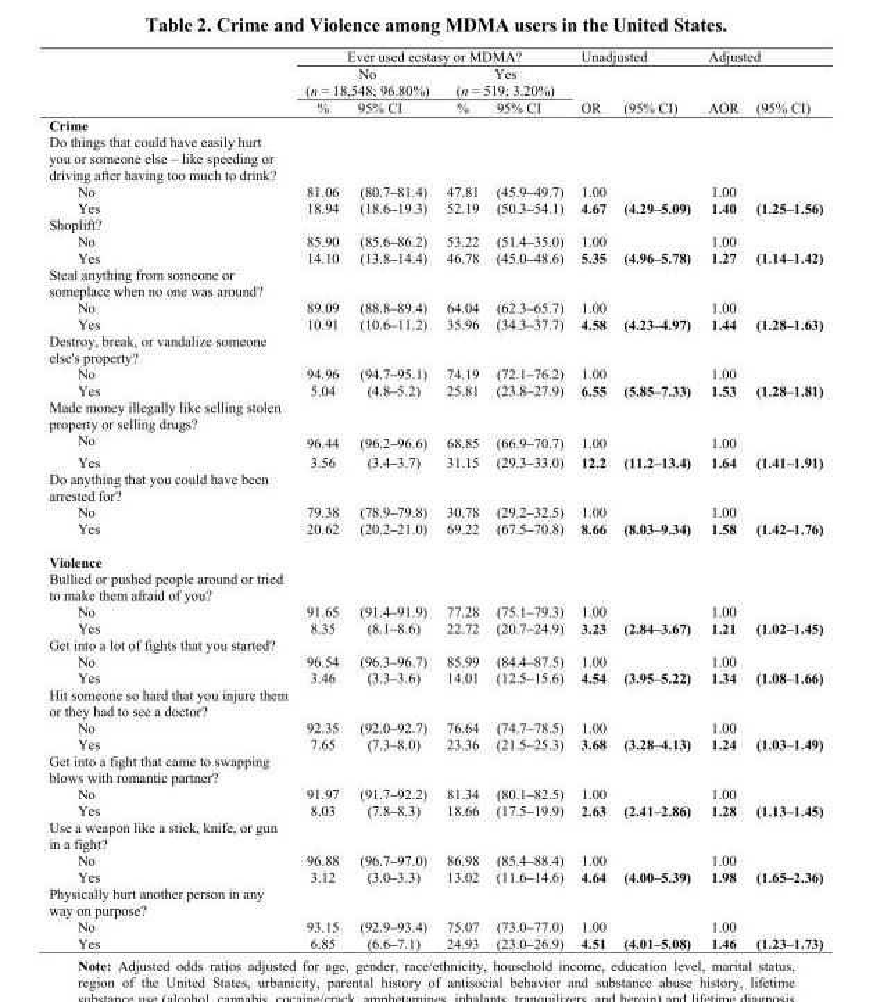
<table><thead><tr><td rowspan="3"></td><td colspan="4">Ever used ecstasy or MDMA?</td><td colspan="2">Unadjusted</td><td colspan="2">Adjusted</td></tr><tr><td colspan="2">No (n = 18,548; 96.80%)</td><td colspan="2">Yes (n = 519; 3.20%)</td><td rowspan="2">OR</td><td rowspan="2">(95% CI)</td><td rowspan="2">AOR</td><td rowspan="2">(95% CI)</td></tr><tr><td>%</td><td>95% CI</td><td>%</td><td>95% CI</td></tr></thead><tbody><tr><td colspan="9">Crime</td></tr><tr><td colspan="9">Do things that could have easily hurt you or someone else – like speeding or driving after having too much to drink?</td></tr><tr><td>No</td><td>81.06</td><td>(80.7–81.4)</td><td>47.81</td><td>(45.9–49.7)</td><td>1.00</td><td></td><td>1.00</td><td></td></tr><tr><td>Yes</td><td>18.94</td><td>(18.6–19.3)</td><td>52.19</td><td>(50.3–54.1)</td><td>4.67</td><td>(4.29–5.09)</td><td>1.40</td><td>(1.25–1.56)</td></tr><tr><td colspan="9">Shoplift?</td></tr><tr><td>No</td><td>85.90</td><td>(85.6–86.2)</td><td>53.22</td><td>(51.4–35.0)</td><td>1.00</td><td></td><td>1.00</td><td></td></tr><tr><td>Yes</td><td>14.10</td><td>(13.8–14.4)</td><td>46.78</td><td>(45.0–48.6)</td><td>5.35</td><td>(4.96–5.78)</td><td>1.27</td><td>(1.14–1.42)</td></tr><tr><td colspan="9">Steal anything from someone or someplace when no one was around?</td></tr><tr><td>No</td><td>89.09</td><td>(88.8–89.4)</td><td>64.04</td><td>(62.3–65.7)</td><td>1.00</td><td></td><td>1.00</td><td></td></tr><tr><td>Yes</td><td>10.91</td><td>(10.6–11.2)</td><td>35.96</td><td>(34.3–37.7)</td><td>4.58</td><td>(4.23–4.97)</td><td>1.44</td><td>(1.28–1.63)</td></tr><tr><td colspan="9">Destroy, break, or vandalize someone else&#x27;s property?</td></tr><tr><td>No</td><td>94.96</td><td>(94.7–95.1)</td><td>74.19</td><td>(72.1–76.2)</td><td>1.00</td><td></td><td>1.00</td><td></td></tr><tr><td>Yes</td><td>5.04</td><td>(4.8–5.2)</td><td>25.81</td><td>(23.8–27.9)</td><td>6.55</td><td>(5.85–7.33)</td><td>1.53</td><td>(1.28–1.81)</td></tr><tr><td colspan="9">Made money illegally like selling stolen property or selling drugs?</td></tr><tr><td>No</td><td>96.44</td><td>(96.2–96.6)</td><td>68.85</td><td>(66.9–70.7)</td><td>1.00</td><td></td><td>1.00</td><td></td></tr><tr><td>Yes</td><td>3.56</td><td>(3.4–3.7)</td><td>31.15</td><td>(29.3–33.0)</td><td>12.2</td><td>(11.2–13.4)</td><td>1.64</td><td>(1.41–1.91)</td></tr><tr><td colspan="9">Do anything that you could have been arrested for?</td></tr><tr><td>No</td><td>79.38</td><td>(78.9–79.8)</td><td>30.78</td><td>(29.2–32.5)</td><td>1.00</td><td></td><td>1.00</td><td></td></tr><tr><td>Yes</td><td>20.62</td><td>(20.2–21.0)</td><td>69.22</td><td>(67.5–70.8)</td><td>8.66</td><td>(8.03–9.34)</td><td>1.58</td><td>(1.42–1.76)</td></tr><tr><td colspan="9">Violence</td></tr><tr><td colspan="9">Bullied or pushed people around or tried to make them afraid of you?</td></tr><tr><td>No</td><td>91.65</td><td>(91.4–91.9)</td><td>77.28</td><td>(75.1–79.3)</td><td>1.00</td><td></td><td>1.00</td><td></td></tr><tr><td>Yes</td><td>8.35</td><td>(8.1–8.6)</td><td>22.72</td><td>(20.7–24.9)</td><td>3.23</td><td>(2.84–3.67)</td><td>1.21</td><td>(1.02–1.45)</td></tr><tr><td colspan="9">Get into a lot of fights that you started?</td></tr><tr><td>No</td><td>96.54</td><td>(96.3–96.7)</td><td>85.99</td><td>(84.4–87.5)</td><td>1.00</td><td></td><td>1.00</td><td></td></tr><tr><td>Yes</td><td>3.46</td><td>(3.3–3.6)</td><td>14.01</td><td>(12.5–15.6)</td><td>4.54</td><td>(3.95–5.22)</td><td>1.34</td><td>(1.08–1.66)</td></tr><tr><td colspan="9">Hit someone so hard that you injure them or they had to see a doctor?</td></tr><tr><td>No</td><td>92.35</td><td>(92.0–92.7)</td><td>76.64</td><td>(74.7–78.5)</td><td>1.00</td><td></td><td>1.00</td><td></td></tr><tr><td>Yes</td><td>7.65</td><td>(7.3–8.0)</td><td>23.36</td><td>(21.5–25.3)</td><td>3.68</td><td>(3.28–4.13)</td><td>1.24</td><td>(1.03–1.49)</td></tr><tr><td colspan="9">Get into a fight that came to swapping blows with romantic partner?</td></tr><tr><td>No</td><td>91.97</td><td>(91.7–92.2)</td><td>81.34</td><td>(80.1–82.5)</td><td>1.00</td><td></td><td>1.00</td><td></td></tr><tr><td>Yes</td><td>8.03</td><td>(7.8–8.3)</td><td>18.66</td><td>(17.5–19.9)</td><td>2.63</td><td>(2.41–2.86)</td><td>1.28</td><td>(1.13–1.45)</td></tr><tr><td colspan="9">Use a weapon like a stick, knife, or gun in a fight?</td></tr><tr><td>No</td><td>96.88</td><td>(96.7–97.0)</td><td>86.98</td><td>(85.4–88.4)</td><td>1.00</td><td></td><td>1.00</td><td></td></tr><tr><td>Yes</td><td>3.12</td><td>(3.0–3.3)</td><td>13.02</td><td>(11.6–14.6)</td><td>4.64</td><td>(4.00–5.39)</td><td>1.98</td><td>(1.65–2.36)</td></tr><tr><td colspan="9">Physically hurt another person in any way on purpose?</td></tr><tr><td>No</td><td>93.15</td><td>(92.9–93.4)</td><td>75.07</td><td>(73.0–77.0)</td><td>1.00</td><td></td><td>1.00</td><td></td></tr><tr><td>Yes</td><td>6.85</td><td>(6.6–7.1)</td><td>24.93</td><td>(23.0–26.9)</td><td>4.51</td><td>(4.01–5.08)</td><td>1.46</td><td>(1.23–1.73)</td></tr></tbody></table>